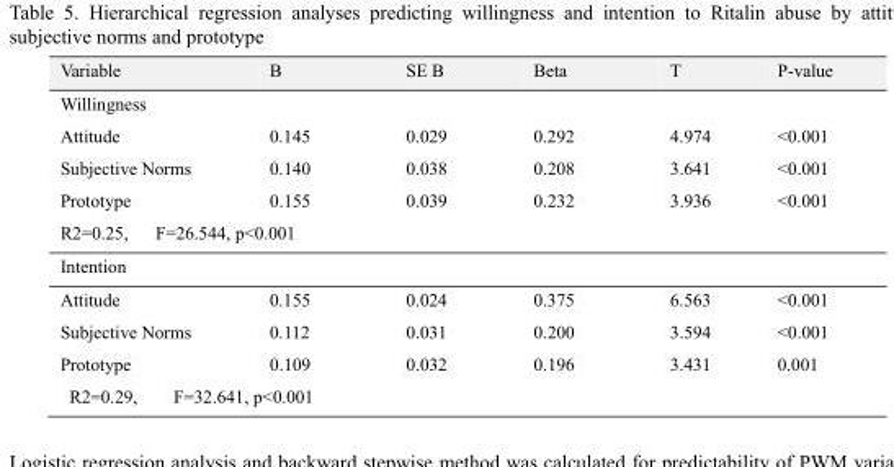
<table><thead><tr><td>Variable</td><td>B</td><td>SE B</td><td>Βeta</td><td>T</td><td>P-value</td></tr></thead><tbody><tr><td colspan="6">Willingness</td></tr><tr><td>Attitude</td><td>0.145</td><td>0.029</td><td>0.292</td><td>4.974</td><td>&lt;0.001</td></tr><tr><td>Subjective Norms</td><td>0.140</td><td>0.038</td><td>0.208</td><td>3.641</td><td>&lt;0.001</td></tr><tr><td>Prototype</td><td>0.155</td><td>0.039</td><td>0.232</td><td>3.936</td><td>&lt;0.001</td></tr><tr><td colspan="6">R2=0.25, F=26.544, p&lt;0.001</td></tr><tr><td colspan="6">Intention</td></tr><tr><td>Attitude</td><td>0.155</td><td>0.024</td><td>0.375</td><td>6.563</td><td>&lt;0.001</td></tr><tr><td>Subjective Norms</td><td>0.112</td><td>0.031</td><td>0.200</td><td>3.594</td><td>&lt;0.001</td></tr><tr><td>Prototype</td><td>0.109</td><td>0.032</td><td>0.196</td><td>3.431</td><td>0.001</td></tr><tr><td colspan="6">R2=0.29, F=32.641, p&lt;0.001</td></tr></tbody></table>